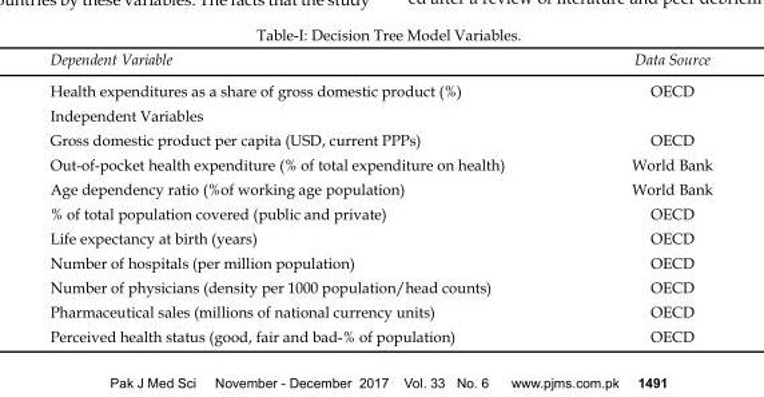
<table><thead><tr><td>Dependent Variable</td><td>Data Source</td></tr></thead><tbody><tr><td>Health expenditures as a share of gross domestic product (%)</td><td>OECD</td></tr><tr><td colspan="2">Independent Variables</td></tr><tr><td>Gross domestic product per capita (USD, current PPPs)</td><td>OECD</td></tr><tr><td>Out-of-pocket health expenditure (% of total expenditure on health)</td><td>World Bank</td></tr><tr><td>Age dependency ratio (%of working age population)</td><td>World Bank</td></tr><tr><td>% of total population covered (public and private)</td><td>OECD</td></tr><tr><td>Life expectancy at birth (years)</td><td>OECD</td></tr><tr><td>Number of hospitals (per million population)</td><td>OECD</td></tr><tr><td>Number of physicians (density per 1000 population/head counts)</td><td>OECD</td></tr><tr><td>Pharmaceutical sales (millions of national currency units)</td><td>OECD</td></tr><tr><td>Perceived health status (good, fair and bad-% of population)</td><td>OECD</td></tr></tbody></table>